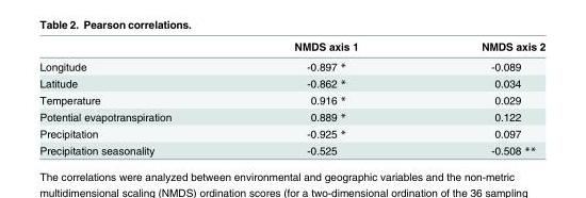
<table><thead><tr><td></td><td>NMDS axis 1</td><td>NMDS axis 2</td></tr></thead><tbody><tr><td>Longitude</td><td>-0.897 *</td><td>-0.089</td></tr><tr><td>Latitude</td><td>-0.862 *</td><td>0.034</td></tr><tr><td>Temperature</td><td>0.916 *</td><td>0.029</td></tr><tr><td>Potential evapotranspiration</td><td>0.889 *</td><td>0.122</td></tr><tr><td>Precipitation</td><td>-0.925 *</td><td>0.097</td></tr><tr><td>Precipitation seasonality</td><td>-0.525</td><td>-0.508 **</td></tr></tbody></table>